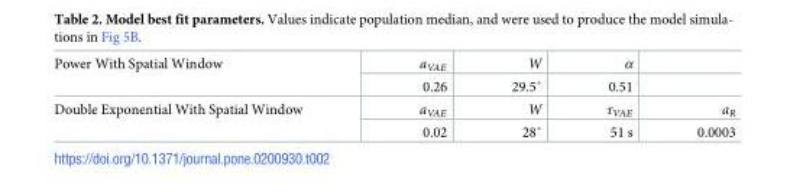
<table><tbody><tr><td rowspan="2">Power With Spatial Window</td><td>a<sub>VAE</sub></td><td>W</td><td>α</td><td></td></tr><tr><td>0.26</td><td>29.5˚</td><td>0.51</td><td></td></tr><tr><td rowspan="2">Double Exponential With Spatial Window</td><td>a<sub>VAE</sub></td><td>W</td><td>τ<sub>VAE</sub></td><td>a<sub>R</sub></td></tr><tr><td>0.02</td><td>28˚</td><td>51 s</td><td>0.0003</td></tr></tbody></table>